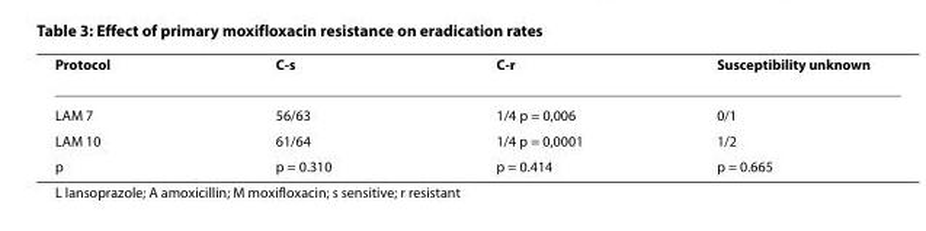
<table><thead><tr><td>Protocol</td><td>C-s</td><td>C-r</td><td>Susceptibility unknown</td></tr></thead><tbody><tr><td>LAM 7</td><td>56/63</td><td>1/4 p = 0,006</td><td>0/1</td></tr><tr><td>LAM 10</td><td>61/64</td><td>1/4 p = 0,0001</td><td>1/2</td></tr><tr><td>p</td><td>p = 0.310</td><td>p = 0.414</td><td>p = 0.665</td></tr></tbody></table>